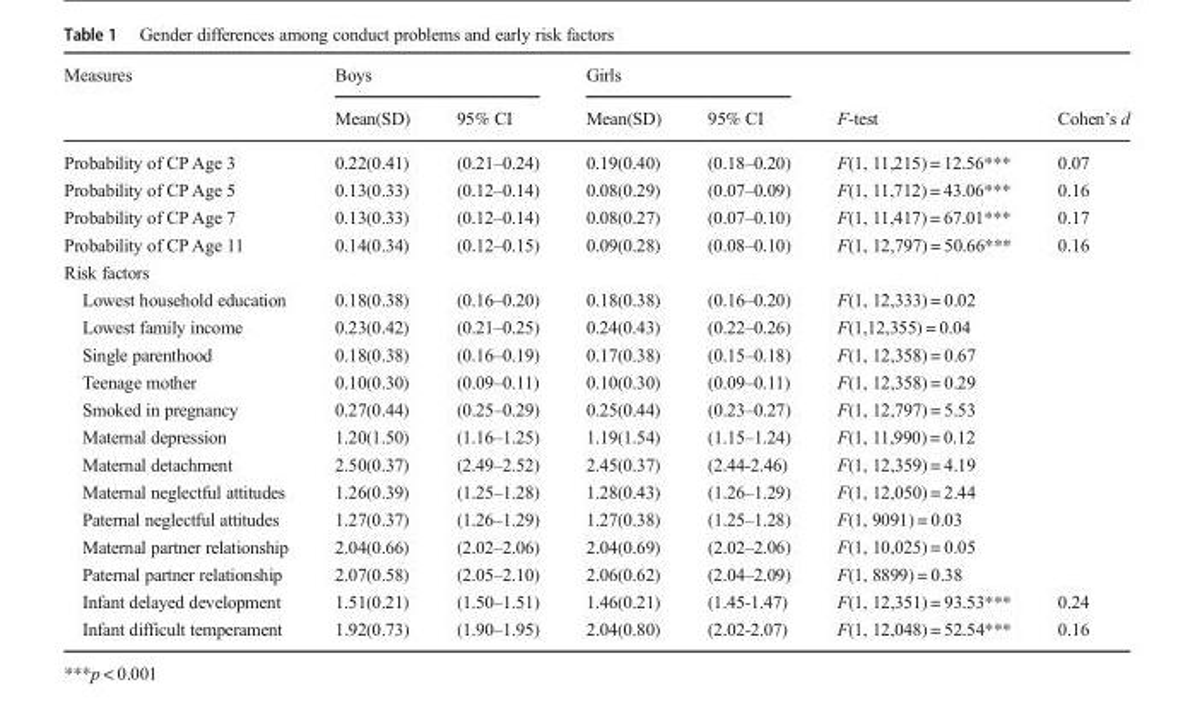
<table><thead><tr><td rowspan="2">Measures</td><td colspan="2">Boys</td><td colspan="2">Girls</td><td rowspan="2">F-test</td><td rowspan="2">Cohen’s d</td></tr><tr><td>Mean(SD)</td><td>95% CI</td><td>Mean(SD)</td><td>95% CI</td></tr></thead><tbody><tr><td>Probability of CP Age 3</td><td>0.22(0.41)</td><td>(0.21–0.24)</td><td>0.19(0.40)</td><td>(0.18–0.20)</td><td>F(1, 11,215) = 12.56***</td><td>0.07</td></tr><tr><td>Probability of CP Age 5</td><td>0.13(0.33)</td><td>(0.12–0.14)</td><td>0.08(0.29)</td><td>(0.07–0.09)</td><td>F(1, 11,712) = 43.06***</td><td>0.16</td></tr><tr><td>Probability of CP Age 7</td><td>0.13(0.33)</td><td>(0.12–0.14)</td><td>0.08(0.27)</td><td>(0.07–0.10)</td><td>F(1, 11,417) = 67.01***</td><td>0.17</td></tr><tr><td>Probability of CP Age 11</td><td>0.14(0.34)</td><td>(0.12–0.15)</td><td>0.09(0.28)</td><td>(0.08–0.10)</td><td>F(1, 12,797) = 50.66***</td><td>0.16</td></tr><tr><td colspan="7">Risk factors</td></tr><tr><td>Lowest household education</td><td>0.18(0.38)</td><td>(0.16–0.20)</td><td>0.18(0.38)</td><td>(0.16–0.20)</td><td>F(1, 12,333) = 0.02</td><td></td></tr><tr><td>Lowest family income</td><td>0.23(0.42)</td><td>(0.21–0.25)</td><td>0.24(0.43)</td><td>(0.22–0.26)</td><td>F(1,12,355) = 0.04</td><td></td></tr><tr><td>Single parenthood</td><td>0.18(0.38)</td><td>(0.16–0.19)</td><td>0.17(0.38)</td><td>(0.15–0.18)</td><td>F(1, 12,358) = 0.67</td><td></td></tr><tr><td>Teenage mother</td><td>0.10(0.30)</td><td>(0.09–0.11)</td><td>0.10(0.30)</td><td>(0.09–0.11)</td><td>F(1, 12,358) = 0.29</td><td></td></tr><tr><td>Smoked in pregnancy</td><td>0.27(0.44)</td><td>(0.25–0.29)</td><td>0.25(0.44)</td><td>(0.23–0.27)</td><td>F(1, 12,797) = 5.53</td><td></td></tr><tr><td>Maternal depression</td><td>1.20(1.50)</td><td>(1.16–1.25)</td><td>1.19(1.54)</td><td>(1.15–1.24)</td><td>F(1, 11,990) = 0.12</td><td></td></tr><tr><td>Maternal detachment</td><td>2.50(0.37)</td><td>(2.49–2.52)</td><td>2.45(0.37)</td><td>(2.44-2.46)</td><td>F(1, 12,359) = 4.19</td><td></td></tr><tr><td>Maternal neglectful attitudes</td><td>1.26(0.39)</td><td>(1.25–1.28)</td><td>1.28(0.43)</td><td>(1.26–1.29)</td><td>F(1, 12,050) = 2.44</td><td></td></tr><tr><td>Paternal neglectful attitudes</td><td>1.27(0.37)</td><td>(1.26–1.29)</td><td>1.27(0.38)</td><td>(1.25–1.28)</td><td>F(1, 9091) = 0.03</td><td></td></tr><tr><td>Maternal partner relationship</td><td>2.04(0.66)</td><td>(2.02–2.06)</td><td>2.04(0.69)</td><td>(2.02–2.06)</td><td>F(1, 10,025) = 0.05</td><td></td></tr><tr><td>Paternal partner relationship</td><td>2.07(0.58)</td><td>(2.05–2.10)</td><td>2.06(0.62)</td><td>(2.04–2.09)</td><td>F(1, 8899) = 0.38</td><td></td></tr><tr><td>Infant delayed development</td><td>1.51(0.21)</td><td>(1.50–1.51)</td><td>1.46(0.21)</td><td>(1.45-1.47)</td><td>F(1, 12,351) = 93.53***</td><td>0.24</td></tr><tr><td>Infant difficult temperament</td><td>1.92(0.73)</td><td>(1.90–1.95)</td><td>2.04(0.80)</td><td>(2.02-2.07)</td><td>F(1, 12,048) = 52.54***</td><td>0.16</td></tr></tbody></table>